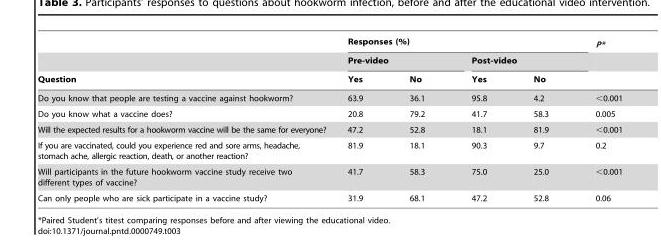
<table><thead><tr><td rowspan="3">Question</td><td colspan="4">Responses (%)</td><td rowspan="3">P*</td></tr><tr><td colspan="2">Pre-video</td><td colspan="2">Post-video</td></tr><tr><td>Yes</td><td>No</td><td>Yes</td><td>No</td></tr></thead><tbody><tr><td>Do you know that people are testing a vaccine against hookworm?</td><td>63.9</td><td>36.1</td><td>95.8</td><td>4.2</td><td>&lt;0.001</td></tr><tr><td>Do you know what a vaccine does?</td><td>20.8</td><td>79.2</td><td>41.7</td><td>58.3</td><td>0.005</td></tr><tr><td>Will the expected results for a hookworm vaccine will be the same for everyone?</td><td>47.2</td><td>52.8</td><td>18.1</td><td>81.9</td><td>&lt;0.001</td></tr><tr><td>If you are vaccinated, could you experience red and sore arms, headache, stomach ache, allergic reaction, death, or another reaction?</td><td>81.9</td><td>18.1</td><td>90.3</td><td>9.7</td><td>0.2</td></tr><tr><td>Will participants in the future hookworm vaccine study receive two different types of vaccine?</td><td>41.7</td><td>58.3</td><td>75.0</td><td>25.0</td><td>&lt;0.001</td></tr><tr><td>Can only people who are sick participate in a vaccine study?</td><td>31.9</td><td>68.1</td><td>47.2</td><td>52.8</td><td>0.06</td></tr></tbody></table>